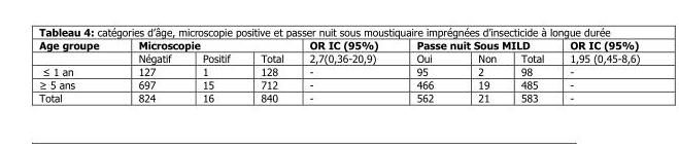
<table><thead><tr><td rowspan="2">Age groupe</td><td colspan="3">Microscopie</td><td rowspan="2">OR IC (95%) 2,7(0,36-20,9)</td><td colspan="3">Passe nuit Sous MILD</td><td rowspan="2">OR IC (95%) 1,95 (0,45-8,6)</td></tr><tr><td>Négatif</td><td>Positif</td><td>Total</td><td>Oui</td><td>Non</td><td>Total</td></tr></thead><tbody><tr><td>≤ 1 an</td><td>127</td><td>1</td><td>128</td><td>-</td><td>95</td><td>2</td><td>98</td><td>-</td></tr><tr><td>≥ 5 ans</td><td>697</td><td>15</td><td>712</td><td>-</td><td>466</td><td>19</td><td>485</td><td>-</td></tr><tr><td>Total</td><td>824</td><td>16</td><td>840</td><td>-</td><td>562</td><td>21</td><td>583</td><td>-</td></tr></tbody></table>